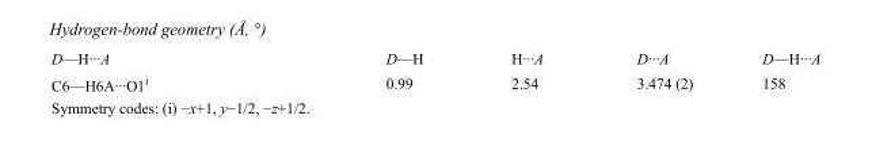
<table><tbody><tr><td>D—H···A</td><td>D—H</td><td>H···A</td><td>D···A</td><td>D—H···A</td></tr><tr><td>C6—H6A···O1<sup>i</sup></td><td>0.99</td><td>2.54</td><td>3.474 (2)</td><td>158</td></tr></tbody></table>